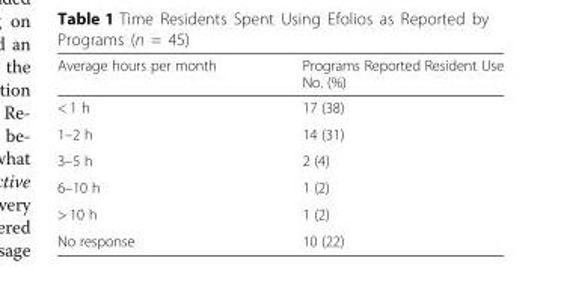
<table><thead><tr><td>Average hours per month</td><td>Programs Reported Resident Use No. (%)</td></tr></thead><tbody><tr><td>&lt; 1 h</td><td>17 (38)</td></tr><tr><td>1–2 h</td><td>14 (31)</td></tr><tr><td>3–5 h</td><td>2 (4)</td></tr><tr><td>6–10 h</td><td>1 (2)</td></tr><tr><td>&gt; 10 h</td><td>1 (2)</td></tr><tr><td>No response</td><td>10 (22)</td></tr></tbody></table>